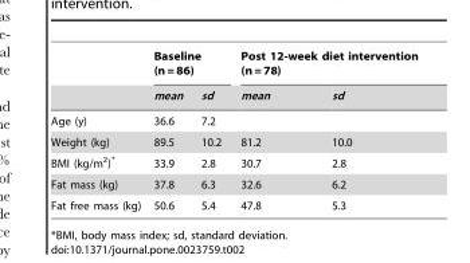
<table><thead><tr><td rowspan="2"></td><td colspan="2">Baseline (n = 86)</td><td colspan="2">Post 12-week diet intervention (n = 78)</td></tr><tr><td>mean</td><td>sd</td><td>mean</td><td>sd</td></tr></thead><tbody><tr><td>Age (y)</td><td>36.6</td><td>7.2</td><td></td><td></td></tr><tr><td>Weight (kg)</td><td>89.5</td><td>10.2</td><td>81.2</td><td>10.0</td></tr><tr><td>BMI (kg/m<sup>2</sup>)*</td><td>33.9</td><td>2.8</td><td>30.7</td><td>2.8</td></tr><tr><td>Fat mass (kg)</td><td>37.8</td><td>6.3</td><td>32.6</td><td>6.2</td></tr><tr><td>Fat free mass (kg)</td><td>50.6</td><td>5.4</td><td>47.8</td><td>5.3</td></tr></tbody></table>